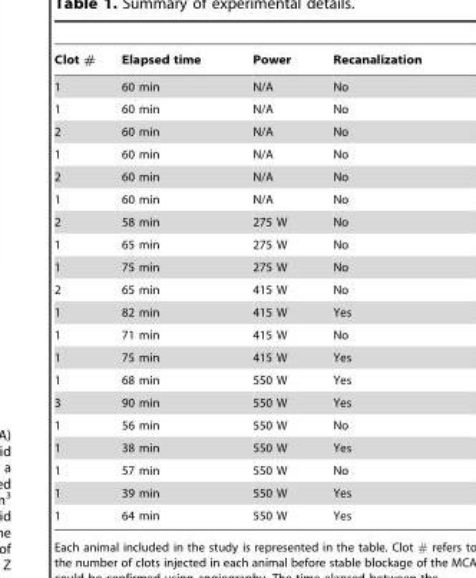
<table><thead><tr><td>Clot #</td><td>Elapsed time</td><td>Power</td><td>Recanalization</td></tr></thead><tbody><tr><td>1</td><td>60 min</td><td>N/A</td><td>No</td></tr><tr><td>1</td><td>60 min</td><td>N/A</td><td>No</td></tr><tr><td>2</td><td>60 min</td><td>N/A</td><td>No</td></tr><tr><td>1</td><td>60 min</td><td>N/A</td><td>No</td></tr><tr><td>2</td><td>60 min</td><td>N/A</td><td>No</td></tr><tr><td>1</td><td>60 min</td><td>N/A</td><td>No</td></tr><tr><td>2</td><td>58 min</td><td>275 W</td><td>No</td></tr><tr><td>1</td><td>65 min</td><td>275 W</td><td>No</td></tr><tr><td>1</td><td>75 min</td><td>275 W</td><td>No</td></tr><tr><td>2</td><td>65 min</td><td>415 W</td><td>No</td></tr><tr><td>1</td><td>82 min</td><td>415 W</td><td>Yes</td></tr><tr><td>1</td><td>71 min</td><td>415 W</td><td>No</td></tr><tr><td>1</td><td>75 min</td><td>415 W</td><td>Yes</td></tr><tr><td>1</td><td>68 min</td><td>550 W</td><td>Yes</td></tr><tr><td>3</td><td>90 min</td><td>550 W</td><td>Yes</td></tr><tr><td>1</td><td>56 min</td><td>550 W</td><td>No</td></tr><tr><td>1</td><td>38 min</td><td>550 W</td><td>Yes</td></tr><tr><td>1</td><td>57 min</td><td>550 W</td><td>No</td></tr><tr><td>1</td><td>39 min</td><td>550 W</td><td>Yes</td></tr><tr><td>1</td><td>64 min</td><td>550 W</td><td>Yes</td></tr></tbody></table>